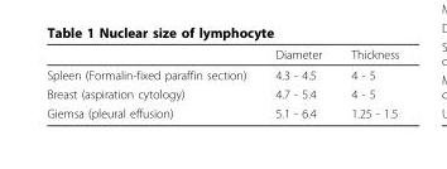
<table><thead><tr><td></td><td>Diameter</td><td>Thickness</td></tr></thead><tbody><tr><td>Spleen (Formalin-fixed paraffin section)</td><td>4.3 - 4.5</td><td>4 - 5</td></tr><tr><td>Breast (aspiration cytology)</td><td>4.7 - 5.4</td><td>4 - 5</td></tr><tr><td>Giemsa (pleural effusion)</td><td>5.1 - 6.4</td><td>1.25 - 1.5</td></tr></tbody></table>